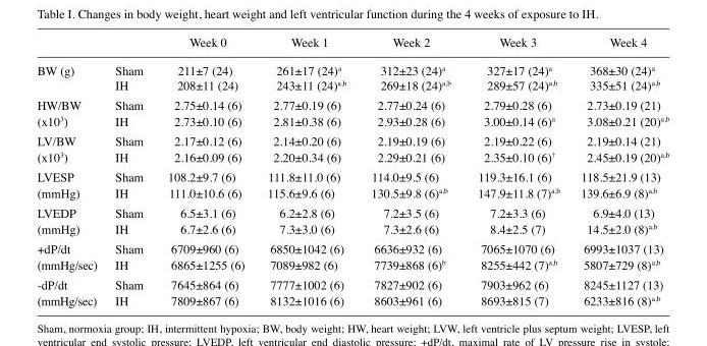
<table><thead><tr><td></td><td></td><td>Week 0</td><td>Week 1</td><td>Week 2</td><td>Week 3</td><td>Week 4</td></tr></thead><tbody><tr><td rowspan="2">BW (g)</td><td>Sham</td><td>211±7 (24)</td><td>261±17 (24)<sup>a</sup></td><td>312±23 (24)<sup>a</sup></td><td>327±17 (24)<sup>a</sup></td><td>368±30 (24)<sup>a</sup></td></tr><tr><td>IH</td><td>208±11 (24)</td><td>243±11 (24)<sup>a</sup>,<sup>b</sup></td><td>269±18 (24)<sup>a</sup>,<sup>b</sup></td><td>289±57 (24)<sup>a</sup>,<sup>b</sup></td><td>335±51 (24)<sup>a</sup>,<sup>b</sup></td></tr><tr><td>HW/BW</td><td>Sham</td><td>2.75±0.14 (6)</td><td>2.77±0.19 (6)</td><td>2.77±0.24 (6)</td><td>2.79±0.28 (6)</td><td>2.73±0.19 (21)</td></tr><tr><td>(x103)</td><td>IH</td><td>2.73±0.10 (6)</td><td>2.81±0.38 (6)</td><td>2.93±0.28 (6)</td><td>3.00±0.14 (6)<sup>a</sup></td><td>3.08±0.21 (20)<sup>a</sup>,<sup>b</sup></td></tr><tr><td>LV/BW</td><td>Sham</td><td>2.17±0.12 (6)</td><td>2.14±0.20 (6)</td><td>2.19±0.19 (6)</td><td>2.19±0.22 (6)</td><td>2.19±0.14 (21)</td></tr><tr><td>(x103)</td><td>IH</td><td>2.16±0.09 (6)</td><td>2.20±0.34 (6)</td><td>2.29±0.21 (6)</td><td>2.35±0.10 (6)<sup>†</sup></td><td>2.45±0.19 (20)<sup>a</sup>,<sup>b</sup></td></tr><tr><td>LVESP</td><td>Sham</td><td>108.2±9.7 (6)</td><td>111.8±11.0 (6)</td><td>114.0±9.5 (6)</td><td>119.3±16.1 (6)</td><td>118.5±21.9 (13)</td></tr><tr><td>(mmHg)</td><td>IH</td><td>111.0±10.6 (6)</td><td>115.6±9.6 (6)</td><td>130.5±9.8 (6)<sup>a</sup>,<sup>b</sup></td><td>147.9±11.8 (7)<sup>a</sup>,<sup>b</sup></td><td>139.6±6.9 (8)<sup>a</sup>,<sup>b</sup></td></tr><tr><td>LVEDP</td><td>Sham</td><td>6.5±3.1 (6)</td><td>6.2±2.8 (6)</td><td>7.2±3.5 (6)</td><td>7.2±3.3 (6)</td><td>6.9±4.0 (13)</td></tr><tr><td>(mmHg)</td><td>IH</td><td>6.7±2.6 (6)</td><td>7.3±3.0 (6)</td><td>7.3±2.6 (6)</td><td>8.4±2.5 (7)</td><td>14.5±2.0 (8)<sup>a</sup>,<sup>b</sup></td></tr><tr><td>+dP/dt</td><td>Sham</td><td>6709±960 (6)</td><td>6850±1042 (6)</td><td>6636±932 (6)</td><td>7065±1070 (6)</td><td>6993±1037 (13)</td></tr><tr><td>(mmHg/sec)</td><td>IH</td><td>6865±1255 (6)</td><td>7089±982 (6)</td><td>7739±868 (6)<sup>b</sup></td><td>8255±442 (7)<sup>a</sup>,<sup>b</sup></td><td>5807±729 (8)<sup>a</sup>,<sup>b</sup></td></tr><tr><td>-dP/dt</td><td>Sham</td><td>7645±864 (6)</td><td>7777±1002 (6)</td><td>7827±902 (6)</td><td>7903±962 (6)</td><td>8245±1127 (13)</td></tr><tr><td>(mmHg/sec)</td><td>IH</td><td>7809±867 (6)</td><td>8132±1016 (6)</td><td>8603±961 (6)</td><td>8693±815 (7)</td><td>6233±816 (8)<sup>a</sup>,<sup>b</sup></td></tr></tbody></table>